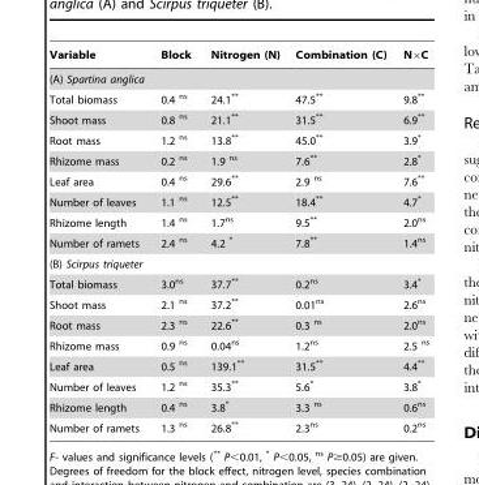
<table><thead><tr><td>Variable</td><td>Block</td><td>Nitrogen (N)</td><td>Combination (C)</td><td>N×C</td></tr></thead><tbody><tr><td colspan="5">(A) Spartina anglica</td></tr><tr><td>Total biomass</td><td>0.4 <sup>ns</sup></td><td>24.1**</td><td>47.5**</td><td>9.8**</td></tr><tr><td>Shoot mass</td><td>0.8 <sup>ns</sup></td><td>21.1**</td><td>31.5**</td><td>6.9**</td></tr><tr><td>Root mass</td><td>1.2 <sup>ns</sup></td><td>13.8**</td><td>45.0**</td><td>3.9*</td></tr><tr><td>Rhizome mass</td><td>0.2 <sup>ns</sup></td><td>1.9 <sup>ns</sup></td><td>7.6**</td><td>2.8*</td></tr><tr><td>Leaf area</td><td>0.4 <sup>ns</sup></td><td>29.6**</td><td>2.9 <sup>ns</sup></td><td>7.6**</td></tr><tr><td>Number of leaves</td><td>1.1 <sup>ns</sup></td><td>12.5**</td><td>18.4**</td><td>4.7*</td></tr><tr><td>Rhizome length</td><td>1.4 <sup>ns</sup></td><td>1.7<sup>ns</sup></td><td>9.5**</td><td>2.0<sup>ns</sup></td></tr><tr><td>Number of ramets</td><td>2.4 <sup>ns</sup></td><td>4.2 *</td><td>7.8**</td><td>1.4<sup>ns</sup></td></tr><tr><td colspan="5">(B) Scirpus triqueter</td></tr><tr><td>Total biomass</td><td>3.0<sup>ns</sup></td><td>37.7**</td><td>0.2<sup>ns</sup></td><td>3.4*</td></tr><tr><td>Shoot mass</td><td>2.1 <sup>ns</sup></td><td>37.2**</td><td>0.01<sup>ns</sup></td><td>2.6<sup>ns</sup></td></tr><tr><td>Root mass</td><td>2.3 <sup>ns</sup></td><td>22.6**</td><td>0.3 <sup>ns</sup></td><td>2.0<sup>ns</sup></td></tr><tr><td>Rhizome mass</td><td>0.9 <sup>ns</sup></td><td>0.04<sup>ns</sup></td><td>1.2<sup>ns</sup></td><td>2.5 <sup>ns</sup></td></tr><tr><td>Leaf area</td><td>0.5 <sup>ns</sup></td><td>139.1**</td><td>31.5**</td><td>4.4**</td></tr><tr><td>Number of leaves</td><td>1.2 <sup>ns</sup></td><td>35.3**</td><td>5.6*</td><td>3.8*</td></tr><tr><td>Rhizome length</td><td>0.4 <sup>ns</sup></td><td>3.8*</td><td>3.3 <sup>ns</sup></td><td>0.6<sup>ns</sup></td></tr><tr><td>Number of ramets</td><td>1.3 <sup>ns</sup></td><td>26.8**</td><td>2.3<sup>ns</sup></td><td>0.2<sup>ns</sup></td></tr></tbody></table>